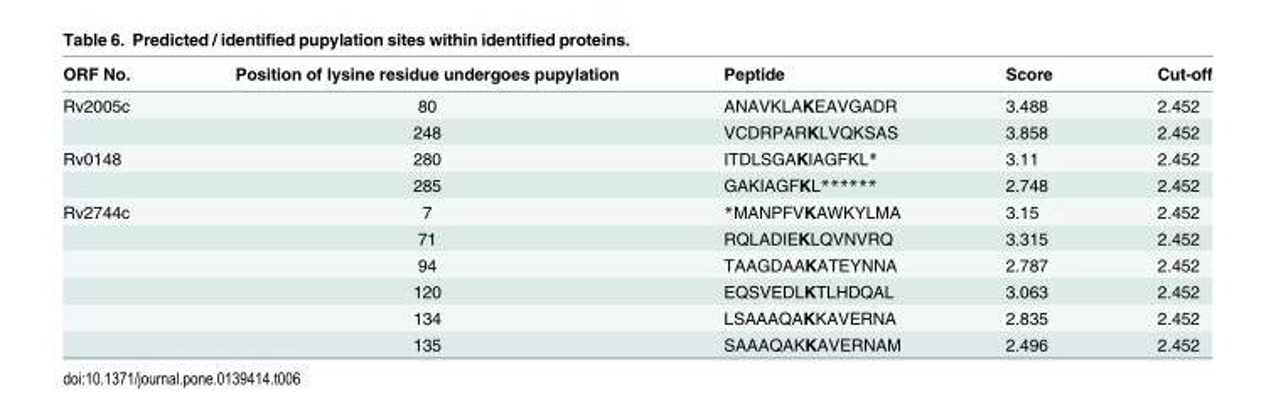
<table><thead><tr><td>ORF No.</td><td>Position of lysine residue undergoes pupylation</td><td>Peptide</td><td>Score</td><td>Cut-off</td></tr></thead><tbody><tr><td rowspan="2">Rv2005c</td><td>80</td><td>ANAVKLAKEAVGADR</td><td>3.488</td><td>2.452</td></tr><tr><td>248</td><td>VCDRPARKLVQKSAS</td><td>3.858</td><td>2.452</td></tr><tr><td rowspan="2">Rv0148</td><td>280</td><td>ITDLSGAKIAGFKL*</td><td>3.11</td><td>2.452</td></tr><tr><td>285</td><td>GAKIAGFKL******</td><td>2.748</td><td>2.452</td></tr><tr><td rowspan="6">Rv2744c</td><td>7</td><td>*MANPFVKAWKYLMA</td><td>3.15</td><td>2.452</td></tr><tr><td>71</td><td>RQLADIEKLQVNVRQ</td><td>3.315</td><td>2.452</td></tr><tr><td>94</td><td>TAAGDAAKATEYNNA</td><td>2.787</td><td>2.452</td></tr><tr><td>120</td><td>EQSVEDLKTLHDQAL</td><td>3.063</td><td>2.452</td></tr><tr><td>134</td><td>LSAAAQAKKAVERNA</td><td>2.835</td><td>2.452</td></tr><tr><td>135</td><td>SAAAQAKKAVERNAM</td><td>2.496</td><td>2.452</td></tr></tbody></table>